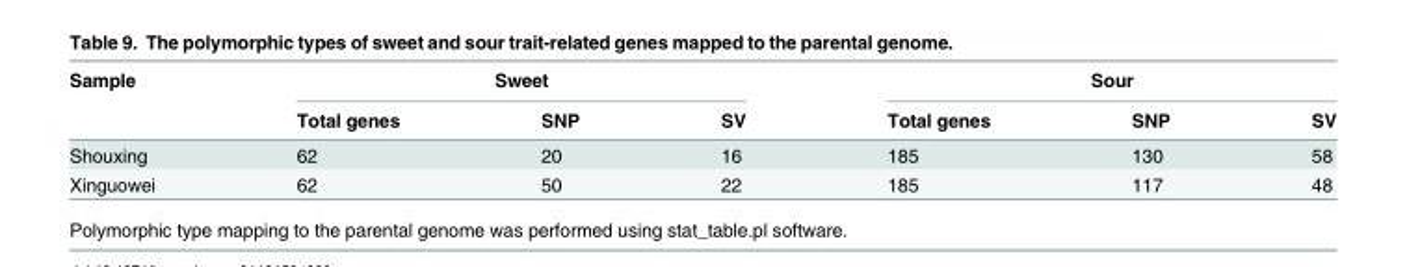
<table><thead><tr><td rowspan="2">Sample</td><td colspan="3">Sweet</td><td colspan="3">Sour</td></tr><tr><td>Total genes</td><td>SNP</td><td>SV</td><td>Total genes</td><td>SNP</td><td>SV</td></tr></thead><tbody><tr><td>Shouxing</td><td>62</td><td>20</td><td>16</td><td>185</td><td>130</td><td>58</td></tr><tr><td>Xinguowei</td><td>62</td><td>50</td><td>22</td><td>185</td><td>117</td><td>48</td></tr></tbody></table>